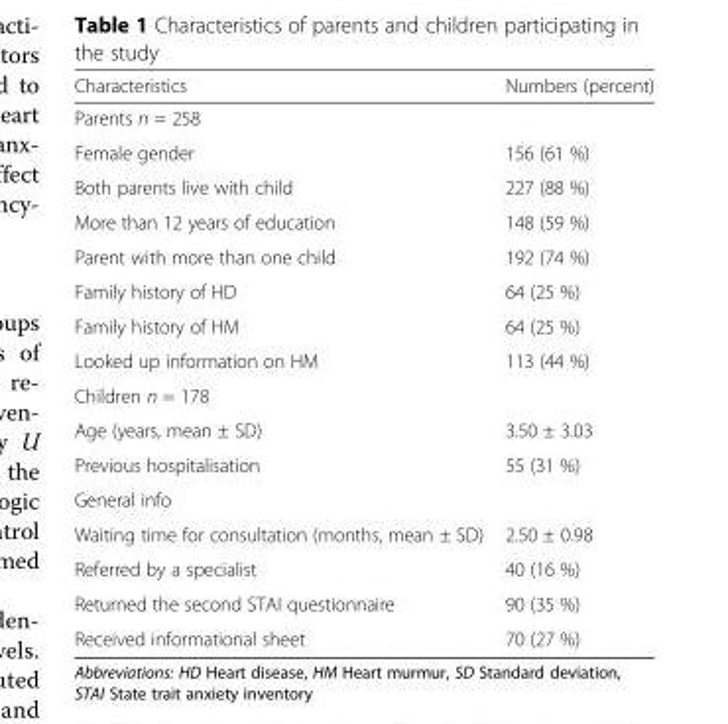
<table><thead><tr><td>Characteristics</td><td>Numbers (percent)</td></tr></thead><tbody><tr><td colspan="2">Parents n = 258</td></tr><tr><td>Female gender</td><td>156 (61 %)</td></tr><tr><td>Both parents live with child</td><td>227 (88 %)</td></tr><tr><td>More than 12 years of education</td><td>148 (59 %)</td></tr><tr><td>Parent with more than one child</td><td>192 (74 %)</td></tr><tr><td>Family history of HD</td><td>64 (25 %)</td></tr><tr><td>Family history of HM</td><td>64 (25 %)</td></tr><tr><td>Looked up information on HM</td><td>113 (44 %)</td></tr><tr><td colspan="2">Children n = 178</td></tr><tr><td>Age (years, mean ± SD)</td><td>3.50 ± 3.03</td></tr><tr><td>Previous hospitalisation</td><td>55 (31 %)</td></tr><tr><td colspan="2">General info</td></tr><tr><td>Waiting time for consultation (months, mean ± SD)</td><td>2.50 ± 0.98</td></tr><tr><td>Referred by a specialist</td><td>40 (16 %)</td></tr><tr><td>Returned the second STAI questionnaire</td><td>90 (35 %)</td></tr><tr><td>Received informational sheet</td><td>70 (27 %)</td></tr></tbody></table>